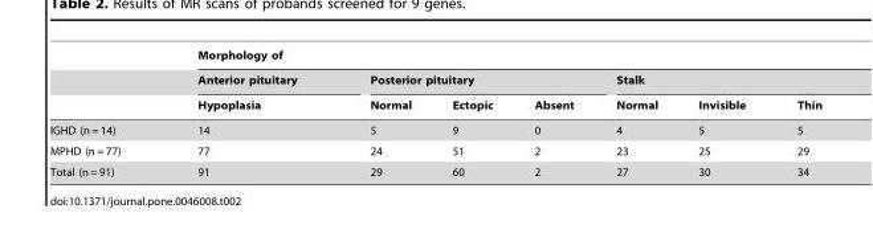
<table><thead><tr><td rowspan="3"></td><td colspan="7">Morphology of</td></tr><tr><td rowspan="2">Anterior pituitary Hypoplasia</td><td colspan="3">Posterior pituitary</td><td colspan="3">Stalk</td></tr><tr><td>Normal</td><td>Ectopic</td><td>Absent</td><td>Normal</td><td>Invisible</td><td>Thin</td></tr></thead><tbody><tr><td>IGHD (n = 14)</td><td>14</td><td>5</td><td>9</td><td>0</td><td>4</td><td>5</td><td>5</td></tr><tr><td>MPHD (n = 77)</td><td>77</td><td>24</td><td>51</td><td>2</td><td>23</td><td>25</td><td>29</td></tr><tr><td>Total (n = 91)</td><td>91</td><td>29</td><td>60</td><td>2</td><td>27</td><td>30</td><td>34</td></tr></tbody></table>